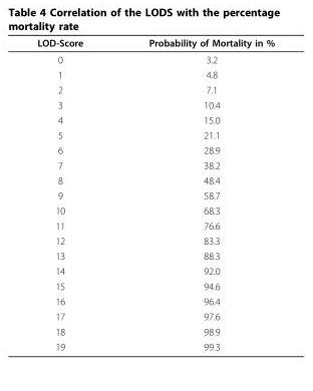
<table><thead><tr><td>LOD-Score</td><td>Probability of Mortality in %</td></tr></thead><tbody><tr><td>0</td><td>3.2</td></tr><tr><td>1</td><td>4.8</td></tr><tr><td>2</td><td>7.1</td></tr><tr><td>3</td><td>10.4</td></tr><tr><td>4</td><td>15.0</td></tr><tr><td>5</td><td>21.1</td></tr><tr><td>6</td><td>28.9</td></tr><tr><td>7</td><td>38.2</td></tr><tr><td>8</td><td>48.4</td></tr><tr><td>9</td><td>58.7</td></tr><tr><td>10</td><td>68.3</td></tr><tr><td>11</td><td>76.6</td></tr><tr><td>12</td><td>83.3</td></tr><tr><td>13</td><td>88.3</td></tr><tr><td>14</td><td>92.0</td></tr><tr><td>15</td><td>94.6</td></tr><tr><td>16</td><td>96.4</td></tr><tr><td>17</td><td>97.6</td></tr><tr><td>18</td><td>98.9</td></tr><tr><td>19</td><td>99.3</td></tr></tbody></table>